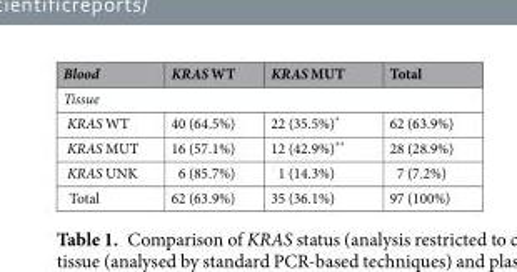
<table><thead><tr><td>Blood</td><td>KRAS WT</td><td>KRAS MUT</td><td>Total</td></tr><tr><td colspan="4">Tissue</td></tr></thead><tbody><tr><td>KRAS WT</td><td>40 (64.5%)</td><td>22 (35.5%)*</td><td>62 (63.9%)</td></tr><tr><td>KRAS MUT</td><td>16 (57.1%)</td><td>12 (42.9%)**</td><td>28 (28.9%)</td></tr><tr><td>KRAS UNK</td><td>6 (85.7%)</td><td>1 (14.3%)</td><td>7 (7.2%)</td></tr><tr><td>Total</td><td>62 (63.9%)</td><td>35 (36.1%)</td><td>97 (100%)</td></tr></tbody></table>